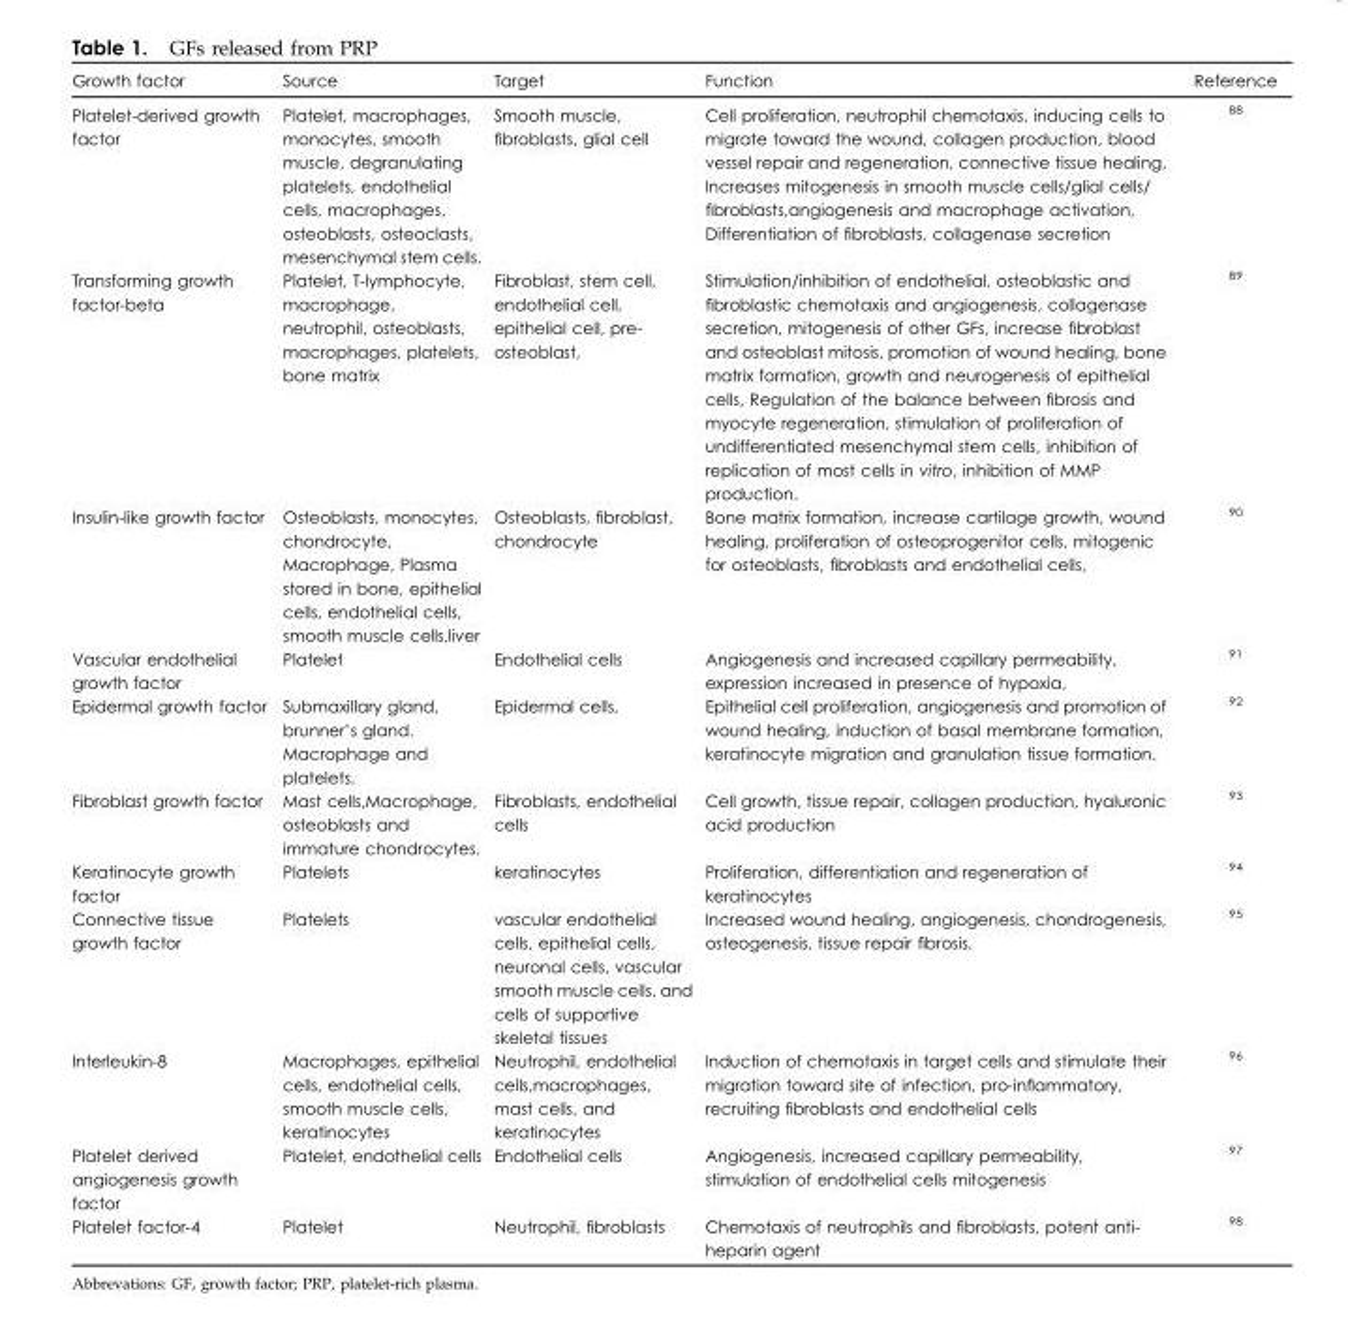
<table><thead><tr><td>Growth factor</td><td>Source</td><td>Target</td><td>Function</td><td>Reference</td></tr></thead><tbody><tr><td>Platelet-derived growth factor</td><td>Platelet, macrophages, monocytes, smooth muscle, degranulating platelets, endothelial cells, macrophages, osteoblasts, osteoclasts, mesenchymal stem cells.</td><td>Smooth muscle, fibroblasts, glial cell</td><td>Cell proliferation, neutrophil chemotaxis, inducing cells to migrate toward the wound, collagen production, blood vessel repair and regeneration, connective tissue healing, Increases mitogenesis in smooth muscle cells/glial cells/ fibroblasts,angiogenesis and macrophage activation, Differentiation of fibroblasts, collagenase secretion</td><td><sup>88</sup></td></tr><tr><td>Transforming growth factor-beta</td><td>Platelet, T-lymphocyte, macrophage, neutrophil, osteoblasts, macrophages, platelets, bone matrix</td><td>Fibroblast, stem cell, endothelial cell, epithelial cell, pre- osteoblast,</td><td>Stimulation/inhibition of endothelial, osteoblastic and fibroblastic chemotaxis and angiogenesis, collagenase secretion, mitogenesis of other GFs, increase fibroblast and osteoblast mitosis, promotion of wound healing, bone matrix formation, growth and neurogenesis of epithelial cells, Regulation of the balance between fibrosis and myocyte regeneration, stimulation of proliferation of undifferentiated mesenchymal stem cells, inhibition of replication of most cells in vitro, inhibition of MMP production.</td><td><sup>89</sup></td></tr><tr><td>Insulin-like growth factor</td><td>Osteoblasts, monocytes, chondrocyte, Macrophage, Plasma stored in bone, epithelial cells, endothelial cells, smooth muscle cells,liver</td><td>Osteoblasts, fibroblast, chondrocyte</td><td>Bone matrix formation, increase cartilage growth, wound healing, proliferation of osteoprogenitor cells, mitogenic for osteoblasts, fibroblasts and endothelial cells,</td><td><sup>90</sup></td></tr><tr><td>Vascular endothelial growth factor</td><td>Platelet</td><td>Endothelial cells</td><td>Angiogenesis and increased capillary permeability, expression increased in presence of hypoxia,</td><td><sup>91</sup></td></tr><tr><td>Epidermal growth factor</td><td>Submaxillary gland, brunner’s gland. Macrophage and platelets.</td><td>Epidermal cells,</td><td>Epithelial cell proliferation, angiogenesis and promotion of wound healing, induction of basal membrane formation, keratinocyte migration and granulation tissue formation.</td><td><sup>92</sup></td></tr><tr><td>Fibroblast growth factor</td><td>Mast cells,Macrophage, osteoblasts and immature chondrocytes.</td><td>Fibroblasts, endothelial cells</td><td>Cell growth, tissue repair, collagen production, hyaluronic acid production</td><td><sup>93</sup></td></tr><tr><td>Keratinocyte growth factor</td><td>Platelets</td><td>keratinocytes</td><td>Proliferation, differentiation and regeneration of keratinocytes</td><td><sup>94</sup></td></tr><tr><td>Connective tissue growth factor</td><td>Platelets</td><td>vascular endothelial cells, epithelial cells, neuronal cells, vascular smooth muscle cells, and cells of supportive skeletal tissues</td><td>Increased wound healing, angiogenesis, chondrogenesis, osteogenesis, tissue repair fibrosis.</td><td><sup>95</sup></td></tr><tr><td>Interleukin-8</td><td>Macrophages, epithelial cells, endothelial cells, smooth muscle cells, keratinocytes</td><td>Neutrophil, endothelial cells,macrophages, mast cells, and keratinocytes</td><td>Induction of chemotaxis in target cells and stimulate their migration toward site of infection, pro-inflammatory, recruiting fibroblasts and endothelial cells</td><td><sup>96</sup></td></tr><tr><td>Platelet derived angiogenesis growth factor</td><td>Platelet, endothelial cells</td><td>Endothelial cells</td><td>Angiogenesis, increased capillary permeability, stimulation of endothelial cells mitogenesis</td><td><sup>97</sup></td></tr><tr><td>Platelet factor-4</td><td>Platelet</td><td>Neutrophil, fibroblasts</td><td>Chemotaxis of neutrophils and fibroblasts, potent anti- heparin agent</td><td><sup>98</sup></td></tr></tbody></table>